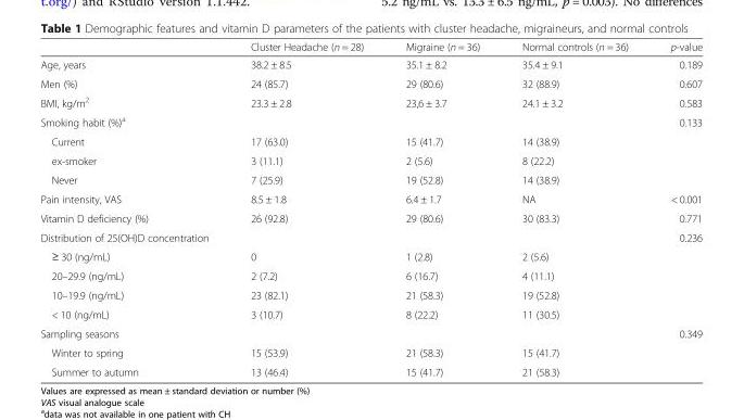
<table><thead><tr><td></td><td>Cluster Headache (n = 28)</td><td>Migraine (n = 36)</td><td>Normal controls (n = 36)</td><td>p-value</td></tr></thead><tbody><tr><td>Age, years</td><td>38.2 ± 8.5</td><td>35.1 ± 8.2</td><td>35.4 ± 9.1</td><td>0.189</td></tr><tr><td>Men (%)</td><td>24 (85.7)</td><td>29 (80.6)</td><td>32 (88.9)</td><td>0.607</td></tr><tr><td>BMI, kg/m<sup>2</sup></td><td>23.3 ± 2.8</td><td>23,6 ± 3.7</td><td>24.1 ± 3.2</td><td>0.583</td></tr><tr><td>Smoking habit (%)<sup>a</sup></td><td></td><td></td><td></td><td>0.133</td></tr><tr><td>Current</td><td>17 (63.0)</td><td>15 (41.7)</td><td>14 (38.9)</td><td></td></tr><tr><td>ex-smoker</td><td>3 (11.1)</td><td>2 (5.6)</td><td>8 (22.2)</td><td></td></tr><tr><td>Never</td><td>7 (25.9)</td><td>19 (52.8)</td><td>14 (38.9)</td><td></td></tr><tr><td>Pain intensity, VAS</td><td>8.5 ± 1.8</td><td>6.4 ± 1.7</td><td>NA</td><td>&lt; 0.001</td></tr><tr><td>Vitamin D deficiency (%)</td><td>26 (92.8)</td><td>29 (80.6)</td><td>30 (83.3)</td><td>0.771</td></tr><tr><td>Distribution of 25(OH)D concentration</td><td></td><td></td><td></td><td>0.236</td></tr><tr><td>≥ 30 (ng/mL)</td><td>0</td><td>1 (2.8)</td><td>2 (5.6)</td><td></td></tr><tr><td>20–29.9 (ng/mL)</td><td>2 (7.2)</td><td>6 (16.7)</td><td>4 (11.1)</td><td></td></tr><tr><td>10–19.9 (ng/mL)</td><td>23 (82.1)</td><td>21 (58.3)</td><td>19 (52.8)</td><td></td></tr><tr><td>&lt; 10 (ng/mL)</td><td>3 (10.7)</td><td>8 (22.2)</td><td>11 (30.5)</td><td></td></tr><tr><td>Sampling seasons</td><td></td><td></td><td></td><td>0.349</td></tr><tr><td>Winter to spring</td><td>15 (53.9)</td><td>21 (58.3)</td><td>15 (41.7)</td><td></td></tr><tr><td>Summer to autumn</td><td>13 (46.4)</td><td>15 (41.7)</td><td>21 (58.3)</td><td></td></tr></tbody></table>